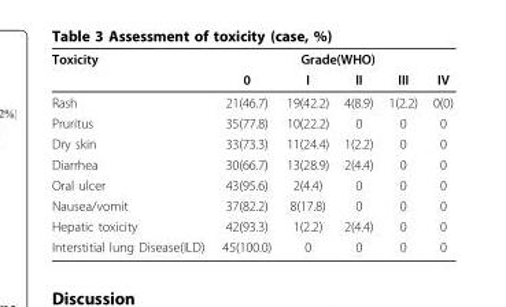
<table><thead><tr><td rowspan="2">Toxicity</td><td colspan="5">Grade(WHO)</td></tr><tr><td>0</td><td>I</td><td>II</td><td>III</td><td>IV</td></tr></thead><tbody><tr><td>Rash</td><td>21(46.7)</td><td>19(42.2)</td><td>4(8.9)</td><td>1(2.2)</td><td>0(0)</td></tr><tr><td>Pruritus</td><td>35(77.8)</td><td>10(22.2)</td><td>0</td><td>0</td><td>0</td></tr><tr><td>Dry skin</td><td>33(73.3)</td><td>11(24.4)</td><td>1(2.2)</td><td>0</td><td>0</td></tr><tr><td>Diarrhea</td><td>30(66.7)</td><td>13(28.9)</td><td>2(4.4)</td><td>0</td><td>0</td></tr><tr><td>Oral ulcer</td><td>43(95.6)</td><td>2(4.4)</td><td>0</td><td>0</td><td>0</td></tr><tr><td>Nausea/vomit</td><td>37(82.2)</td><td>8(17.8)</td><td>0</td><td>0</td><td>0</td></tr><tr><td>Hepatic toxicity</td><td>42(93.3)</td><td>1(2.2)</td><td>2(4.4)</td><td>0</td><td>0</td></tr><tr><td>Interstitial lung Disease(ILD)</td><td>45(100.0)</td><td>0</td><td>0</td><td>0</td><td>0</td></tr></tbody></table>